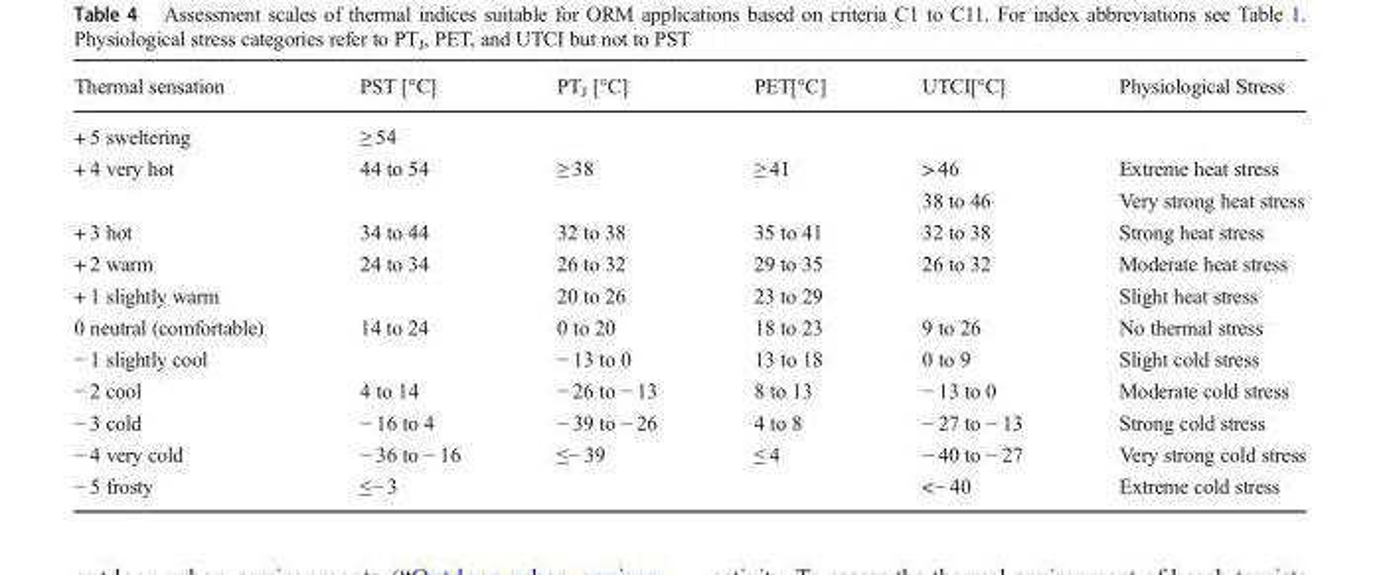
<table><thead><tr><td>Thermal sensation</td><td>PST [°C]</td><td>PT<sub>J</sub> [°C]</td><td>PET[°C]</td><td>UTCI[°C]</td><td>Physiological Stress</td></tr></thead><tbody><tr><td>+ 5 sweltering</td><td>≥ 54</td><td></td><td></td><td></td><td></td></tr><tr><td rowspan="2">+ 4 very hot</td><td>44 to 54</td><td>≥ 38</td><td>≥ 41</td><td>&gt; 46</td><td>Extreme heat stress</td></tr><tr><td></td><td></td><td></td><td>38 to 46</td><td>Very strong heat stress</td></tr><tr><td>+ 3 hot</td><td>34 to 44</td><td>32 to 38</td><td>35 to 41</td><td>32 to 38</td><td>Strong heat stress</td></tr><tr><td>+ 2 warm</td><td>24 to 34</td><td>26 to 32</td><td>29 to 35</td><td>26 to 32</td><td>Moderate heat stress</td></tr><tr><td>+ 1 slightly warm</td><td></td><td>20 to 26</td><td>23 to 29</td><td></td><td>Slight heat stress</td></tr><tr><td>0 neutral (comfortable)</td><td>14 to 24</td><td>0 to 20</td><td>18 to 23</td><td>9 to 26</td><td>No thermal stress</td></tr><tr><td>− 1 slightly cool</td><td></td><td>− 13 to 0</td><td>13 to 18</td><td>0 to 9</td><td>Slight cold stress</td></tr><tr><td>− 2 cool</td><td>4 to 14</td><td>− 26 to − 13</td><td>8 to 13</td><td>− 13 to 0</td><td>Moderate cold stress</td></tr><tr><td>− 3 cold</td><td>− 16 to 4</td><td>− 39 to − 26</td><td>4 to 8</td><td>− 27 to − 13</td><td>Strong cold stress</td></tr><tr><td>− 4 very cold</td><td>− 36 to − 16</td><td>≤− 39</td><td>≤ 4</td><td>− 40 to − 27</td><td>Very strong cold stress</td></tr><tr><td>− 5 frosty</td><td>≤− 3</td><td></td><td></td><td>&lt;− 40</td><td>Extreme cold stress</td></tr></tbody></table>